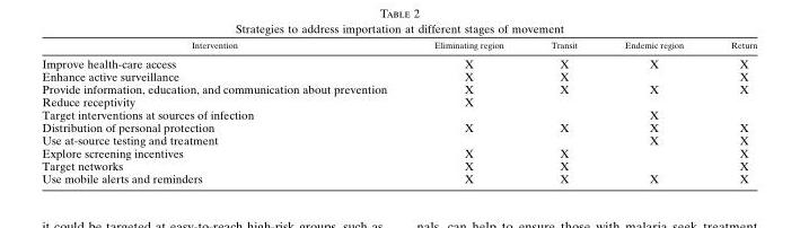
<table><thead><tr><td>Intervention</td><td>Eliminating region</td><td>Transit</td><td>Endemic region</td><td>Return</td></tr></thead><tbody><tr><td>Improve health-care access</td><td>X</td><td>X</td><td>X</td><td>X</td></tr><tr><td>Enhance active surveillance</td><td>X</td><td>X</td><td></td><td>X</td></tr><tr><td>Provide information, education, and communication about prevention</td><td>X</td><td>X</td><td>X</td><td>X</td></tr><tr><td>Reduce receptivity</td><td>X</td><td></td><td></td><td></td></tr><tr><td>Target interventions at sources of infection</td><td></td><td></td><td>X</td><td></td></tr><tr><td>Distribution of personal protection</td><td>X</td><td>X</td><td>X</td><td>X</td></tr><tr><td>Use at-source testing and treatment</td><td></td><td></td><td>X</td><td>X</td></tr><tr><td>Explore screening incentives</td><td>X</td><td>X</td><td></td><td>X</td></tr><tr><td>Target networks</td><td>X</td><td>X</td><td></td><td>X</td></tr><tr><td>Use mobile alerts and reminders</td><td>X</td><td>X</td><td>X</td><td>X</td></tr></tbody></table>